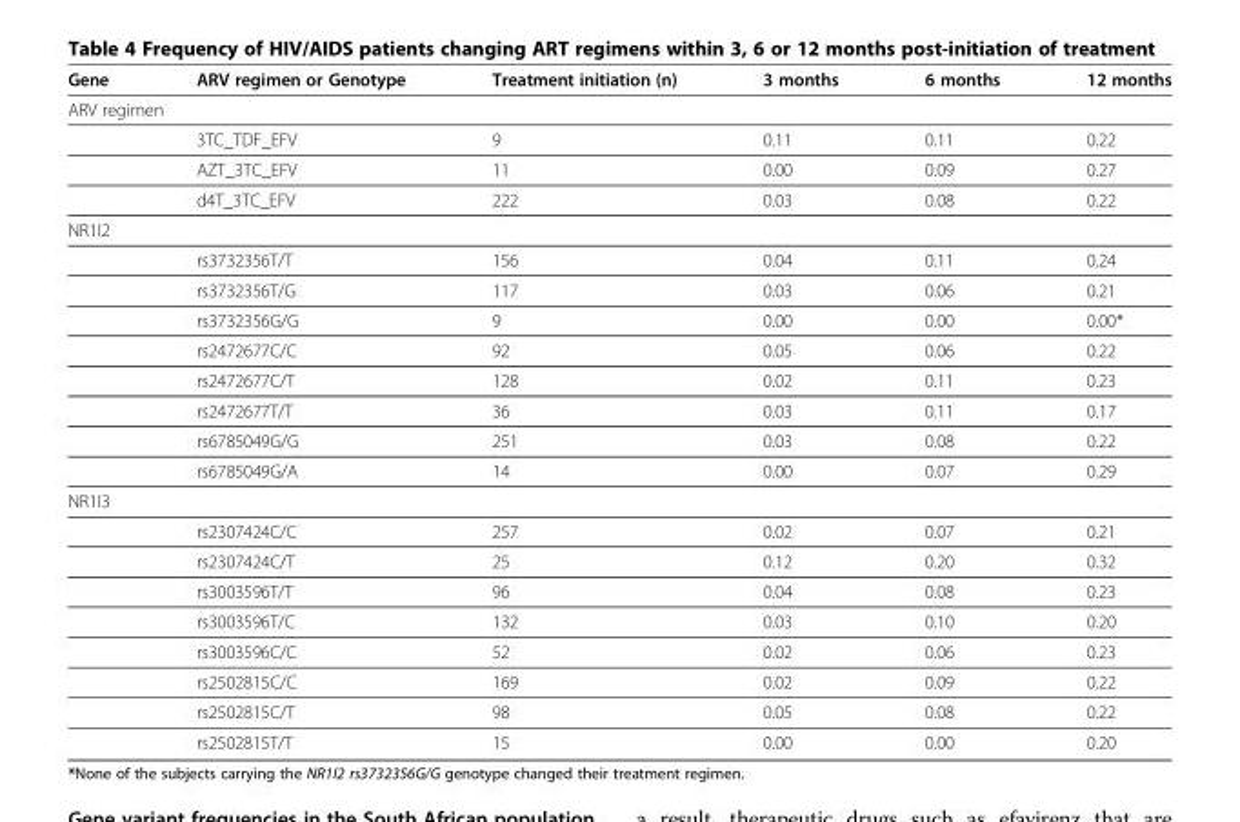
<table><thead><tr><td>Gene</td><td>ARV regimen or Genotype</td><td>Treatment initiation (n)</td><td>3 months</td><td>6 months</td><td>12 months</td></tr></thead><tbody><tr><td colspan="6">ARV regimen</td></tr><tr><td></td><td>3TC_TDF_EFV</td><td>9</td><td>0.11</td><td>0.11</td><td>0.22</td></tr><tr><td></td><td>AZT_3TC_EFV</td><td>11</td><td>0.00</td><td>0.09</td><td>0.27</td></tr><tr><td></td><td>d4T_3TC_EFV</td><td>222</td><td>0.03</td><td>0.08</td><td>0.22</td></tr><tr><td colspan="6">NR1I2</td></tr><tr><td></td><td>rs3732356T/T</td><td>156</td><td>0.04</td><td>0.11</td><td>0.24</td></tr><tr><td></td><td>rs3732356T/G</td><td>117</td><td>0.03</td><td>0.06</td><td>0.21</td></tr><tr><td></td><td>rs3732356G/G</td><td>9</td><td>0.00</td><td>0.00</td><td>0.00*</td></tr><tr><td></td><td>rs2472677C/C</td><td>92</td><td>0.05</td><td>0.06</td><td>0.22</td></tr><tr><td></td><td>rs2472677C/T</td><td>128</td><td>0.02</td><td>0.11</td><td>0.23</td></tr><tr><td></td><td>rs2472677T/T</td><td>36</td><td>0.03</td><td>0.11</td><td>0.17</td></tr><tr><td></td><td>rs6785049G/G</td><td>251</td><td>0.03</td><td>0.08</td><td>0.22</td></tr><tr><td></td><td>rs6785049G/A</td><td>14</td><td>0.00</td><td>0.07</td><td>0.29</td></tr><tr><td colspan="6">NR1I3</td></tr><tr><td></td><td>rs2307424C/C</td><td>257</td><td>0.02</td><td>0.07</td><td>0.21</td></tr><tr><td></td><td>rs2307424C/T</td><td>25</td><td>0.12</td><td>0.20</td><td>0.32</td></tr><tr><td></td><td>rs3003596T/T</td><td>96</td><td>0.04</td><td>0.08</td><td>0.23</td></tr><tr><td></td><td>rs3003596T/C</td><td>132</td><td>0.03</td><td>0.10</td><td>0.20</td></tr><tr><td></td><td>rs3003596C/C</td><td>52</td><td>0.02</td><td>0.06</td><td>0.23</td></tr><tr><td></td><td>rs2502815C/C</td><td>169</td><td>0.02</td><td>0.09</td><td>0.22</td></tr><tr><td></td><td>rs2502815C/T</td><td>98</td><td>0.05</td><td>0.08</td><td>0.22</td></tr><tr><td></td><td>rs2502815T/T</td><td>15</td><td>0.00</td><td>0.00</td><td>0.20</td></tr></tbody></table>